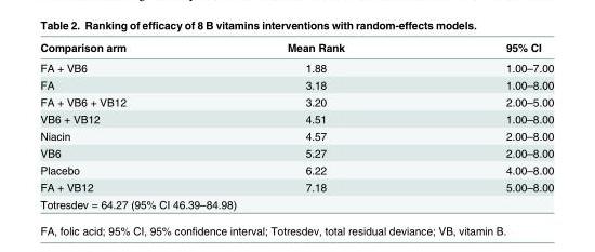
<table><thead><tr><td>Comparison arm</td><td>Mean Rank</td><td>95% CI</td></tr></thead><tbody><tr><td>FA + VB6</td><td>1.88</td><td>1.00–7.00</td></tr><tr><td>FA</td><td>3.18</td><td>1.00–8.00</td></tr><tr><td>FA + VB6 + VB12</td><td>3.20</td><td>2.00–5.00</td></tr><tr><td>VB6 + VB12</td><td>4.51</td><td>1.00–8.00</td></tr><tr><td>Niacin</td><td>4.57</td><td>2.00–8.00</td></tr><tr><td>VB6</td><td>5.27</td><td>2.00–8.00</td></tr><tr><td>Placebo</td><td>6.22</td><td>4.00–8.00</td></tr><tr><td>FA + VB12</td><td>7.18</td><td>5.00–8.00</td></tr><tr><td colspan="3">Totresdev = 64.27 (95% CI 46.39–84.98)</td></tr></tbody></table>